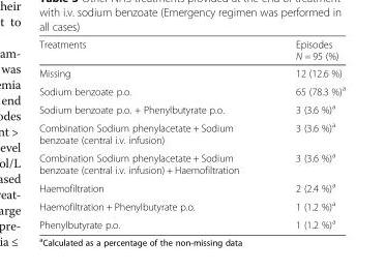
<table><thead><tr><td>Treatments</td><td>Episodes N = 95 (%)</td></tr></thead><tbody><tr><td>Missing</td><td>12 (12.6 %)</td></tr><tr><td>Sodium benzoate p.o.</td><td>65 (78.3 %)<sup>a</sup></td></tr><tr><td>Sodium benzoate p.o. + Phenylbutyrate p.o.</td><td>3 (3.6 %)<sup>a</sup></td></tr><tr><td>Combination Sodium phenylacetate + Sodium benzoate (central i.v. infusion)</td><td>3 (3.6 %)<sup>a</sup></td></tr><tr><td>Combination Sodium phenylacetate + Sodium benzoate (central i.v. infusion) + Haemofiltration</td><td>3 (3.6 %)<sup>a</sup></td></tr><tr><td>Haemofiltration</td><td>2 (2.4 %)<sup>a</sup></td></tr><tr><td>Haemofiltration + Phenylbutyrate p.o.</td><td>1 (1.2 %)<sup>a</sup></td></tr><tr><td>Phenylbutyrate p.o.</td><td>1 (1.2 %)<sup>a</sup></td></tr></tbody></table>